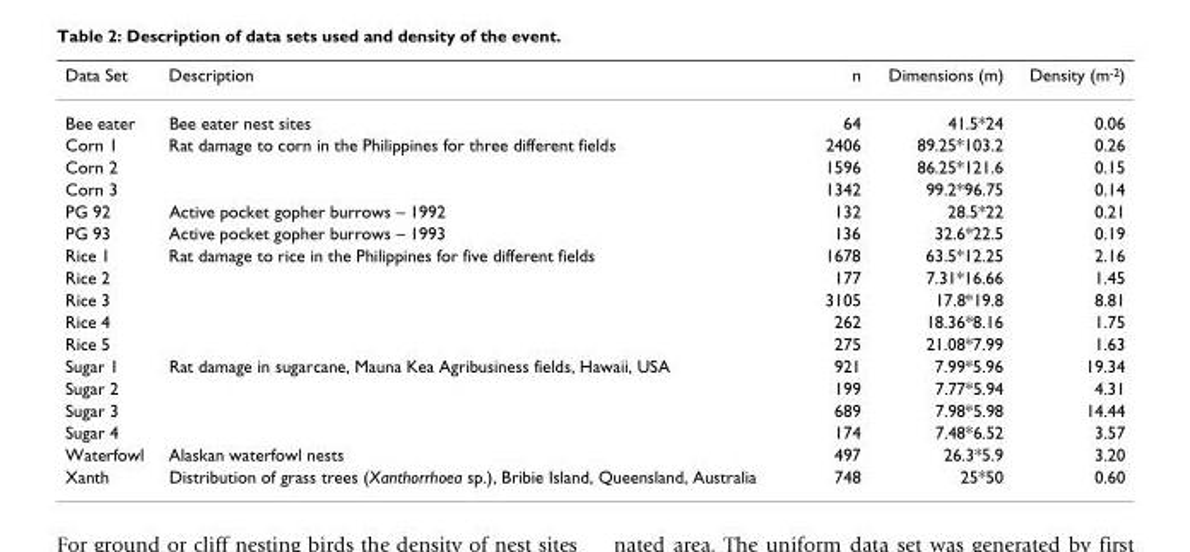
<table><thead><tr><td>Data Set</td><td>Description</td><td>n</td><td>Dimensions (m)</td><td>Density (m<sup>-2</sup>)</td></tr></thead><tbody><tr><td>Bee eater</td><td>Bee eater nest sites</td><td>64</td><td>41.5*24</td><td>0.06</td></tr><tr><td>Corn 1</td><td>Rat damage to corn in the Philippines for three different fields</td><td>2406</td><td>89.25*103.2</td><td>0.26</td></tr><tr><td>Corn 2</td><td></td><td>1596</td><td>86.25*121.6</td><td>0.15</td></tr><tr><td>Corn 3</td><td></td><td>1342</td><td>99.2*96.75</td><td>0.14</td></tr><tr><td>PG 92</td><td>Active pocket gopher burrows – 1992</td><td>132</td><td>28.5*22</td><td>0.21</td></tr><tr><td>PG 93</td><td>Active pocket gopher burrows – 1993</td><td>136</td><td>32.6*22.5</td><td>0.19</td></tr><tr><td>Rice 1</td><td>Rat damage to rice in the Philippines for five different fields</td><td>1678</td><td>63.5*12.25</td><td>2.16</td></tr><tr><td>Rice 2</td><td></td><td>177</td><td>7.31*16.66</td><td>1.45</td></tr><tr><td>Rice 3</td><td></td><td>3105</td><td>17.8*19.8</td><td>8.81</td></tr><tr><td>Rice 4</td><td></td><td>262</td><td>18.36*8.16</td><td>1.75</td></tr><tr><td>Rice 5</td><td></td><td>275</td><td>21.08*7.99</td><td>1.63</td></tr><tr><td>Sugar 1</td><td>Rat damage in sugarcane, Mauna Kea Agribusiness fields, Hawaii, USA</td><td>921</td><td>7.99*5.96</td><td>19.34</td></tr><tr><td>Sugar 2</td><td></td><td>199</td><td>7.77*5.94</td><td>4.31</td></tr><tr><td>Sugar 3</td><td></td><td>689</td><td>7.98*5.98</td><td>14.44</td></tr><tr><td>Sugar 4</td><td></td><td>174</td><td>7.48*6.52</td><td>3.57</td></tr><tr><td>Waterfowl</td><td>Alaskan waterfowl nests</td><td>497</td><td>26.3*5.9</td><td>3.20</td></tr><tr><td>Xanth</td><td>Distribution of grass trees (Xanthorrhoea sp.), Bribie Island, Queensland, Australia</td><td>748</td><td>25*50</td><td>0.60</td></tr></tbody></table>